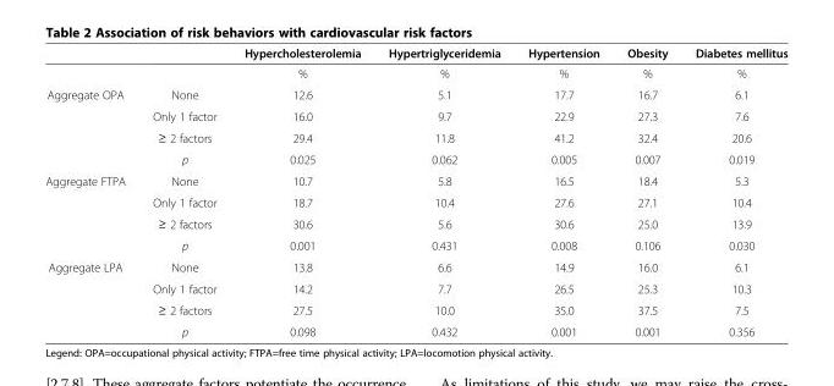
<table><thead><tr><td></td><td></td><td>Hypercholesterolemia</td><td>Hypertriglyceridemia</td><td>Hypertension</td><td>Obesity</td><td>Diabetes mellitus</td></tr></thead><tbody><tr><td></td><td></td><td>%</td><td>%</td><td>%</td><td>%</td><td>%</td></tr><tr><td rowspan="4">Aggregate OPA</td><td>None</td><td>12.6</td><td>5.1</td><td>17.7</td><td>16.7</td><td>6.1</td></tr><tr><td>Only 1 factor</td><td>16.0</td><td>9.7</td><td>22.9</td><td>27.3</td><td>7.6</td></tr><tr><td>≥ 2 factors</td><td>29.4</td><td>11.8</td><td>41.2</td><td>32.4</td><td>20.6</td></tr><tr><td>p</td><td>0.025</td><td>0.062</td><td>0.005</td><td>0.007</td><td>0.019</td></tr><tr><td rowspan="4">Aggregate FTPA</td><td>None</td><td>10.7</td><td>5.8</td><td>16.5</td><td>18.4</td><td>5.3</td></tr><tr><td>Only 1 factor</td><td>18.7</td><td>10.4</td><td>27.6</td><td>27.1</td><td>10.4</td></tr><tr><td>≥ 2 factors</td><td>30.6</td><td>5.6</td><td>30.6</td><td>25.0</td><td>13.9</td></tr><tr><td>p</td><td>0.001</td><td>0.431</td><td>0.008</td><td>0.106</td><td>0.030</td></tr><tr><td rowspan="4">Aggregate LPA</td><td>None</td><td>13.8</td><td>6.6</td><td>14.9</td><td>16.0</td><td>6.1</td></tr><tr><td>Only 1 factor</td><td>14.2</td><td>7.7</td><td>26.5</td><td>25.3</td><td>10.3</td></tr><tr><td>≥ 2 factors</td><td>27.5</td><td>10.0</td><td>35.0</td><td>37.5</td><td>7.5</td></tr><tr><td>p</td><td>0.098</td><td>0.432</td><td>0.001</td><td>0.001</td><td>0.356</td></tr></tbody></table>